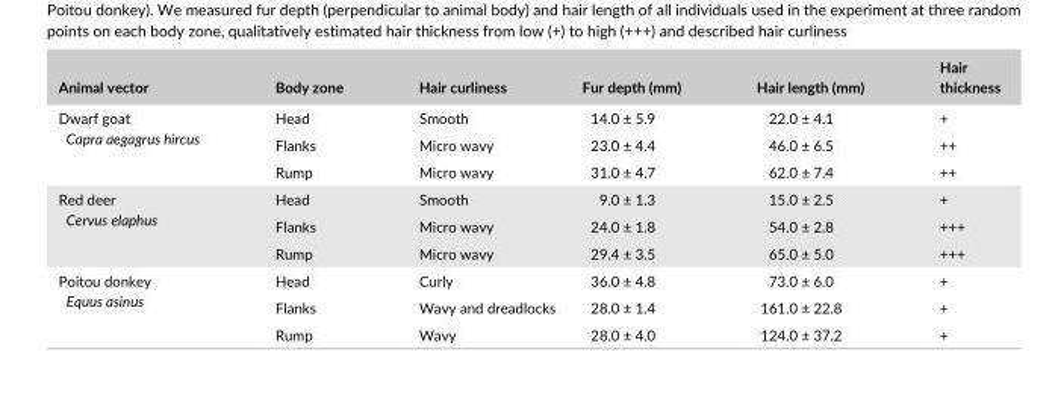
<table><thead><tr><td>Animal vector</td><td>Body zone</td><td>Hair curliness</td><td>Fur depth (mm)</td><td>Hair length (mm)</td><td>Hair thickness</td></tr></thead><tbody><tr><td rowspan="3">Dwarf goat Capra aegagrus hircus</td><td>Head</td><td>Smooth</td><td>14.0 ± 5.9</td><td>22.0 ± 4.1</td><td>+</td></tr><tr><td>Flanks</td><td>Micro wavy</td><td>23.0 ± 4.4</td><td>46.0 ± 6.5</td><td>++</td></tr><tr><td>Rump</td><td>Micro wavy</td><td>31.0 ± 4.7</td><td>62.0 ± 7.4</td><td>++</td></tr><tr><td rowspan="3">Red deer Cervus elaphus</td><td>Head</td><td>Smooth</td><td>9.0 ± 1.3</td><td>15.0 ± 2.5</td><td>+</td></tr><tr><td>Flanks</td><td>Micro wavy</td><td>24.0 ± 1.8</td><td>54.0 ± 2.8</td><td>+++</td></tr><tr><td>Rump</td><td>Micro wavy</td><td>29.4 ± 3.5</td><td>65.0 ± 5.0</td><td>+++</td></tr><tr><td rowspan="3">Poitou donkey Equus asinus</td><td>Head</td><td>Curly</td><td>36.0 ± 4.8</td><td>73.0 ± 6.0</td><td>+</td></tr><tr><td>Flanks</td><td>Wavy and dreadlocks</td><td>28.0 ± 1.4</td><td>161.0 ± 22.8</td><td>+</td></tr><tr><td>Rump</td><td>Wavy</td><td>28.0 ± 4.0</td><td>124.0 ± 37.2</td><td>+</td></tr></tbody></table>